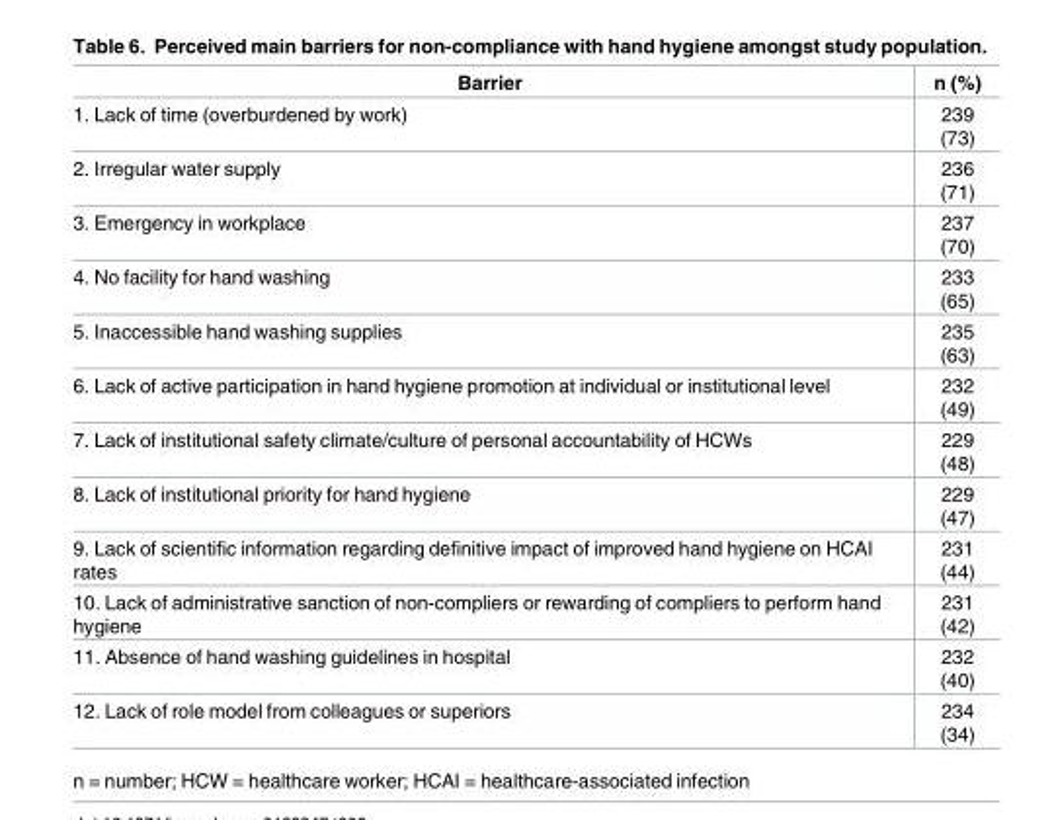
<table><thead><tr><td>Barrier</td><td>n (%)</td></tr></thead><tbody><tr><td>1. Lack of time (overburdened by work)</td><td>239 (73)</td></tr><tr><td>2. Irregular water supply</td><td>236 (71)</td></tr><tr><td>3. Emergency in workplace</td><td>237 (70)</td></tr><tr><td>4. No facility for hand washing</td><td>233 (65)</td></tr><tr><td>5. Inaccessible hand washing supplies</td><td>235 (63)</td></tr><tr><td>6. Lack of active participation in hand hygiene promotion at individual or institutional level</td><td>232 (49)</td></tr><tr><td>7. Lack of institutional safety climate/culture of personal accountability of HCWs</td><td>229 (48)</td></tr><tr><td>8. Lack of institutional priority for hand hygiene</td><td>229 (47)</td></tr><tr><td>9. Lack of scientific information regarding definitive impact of improved hand hygiene on HCAI rates</td><td>231 (44)</td></tr><tr><td>10. Lack of administrative sanction of non-compliers or rewarding of compliers to perform hand hygiene</td><td>231 (42)</td></tr><tr><td>11. Absence of hand washing guidelines in hospital</td><td>232 (40)</td></tr><tr><td>12. Lack of role model from colleagues or superiors</td><td>234 (34)</td></tr></tbody></table>